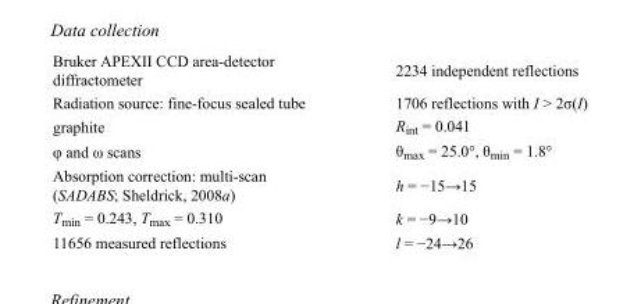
<table><tbody><tr><td>Bruker APEXII CCD area-detector diffractometer</td><td>2234 independent reflections</td></tr><tr><td>Radiation source: fine-focus sealed tube</td><td>1706 reflections with I &gt; 2σ(I)</td></tr><tr><td>graphite</td><td>R<sub>int</sub> = 0.041</td></tr><tr><td>φ and ω scans</td><td>θ<sub>max</sub> = 25.0°, θ<sub>min</sub> = 1.8°</td></tr><tr><td>Absorption correction: multi-scan (SADABS; Sheldrick, 2008a)</td><td>h = −15→15</td></tr><tr><td>T<sub>min</sub> = 0.243, T<sub>max</sub> = 0.310</td><td>k = −9→10</td></tr><tr><td>11656 measured reflections</td><td>l = −24→26</td></tr></tbody></table>